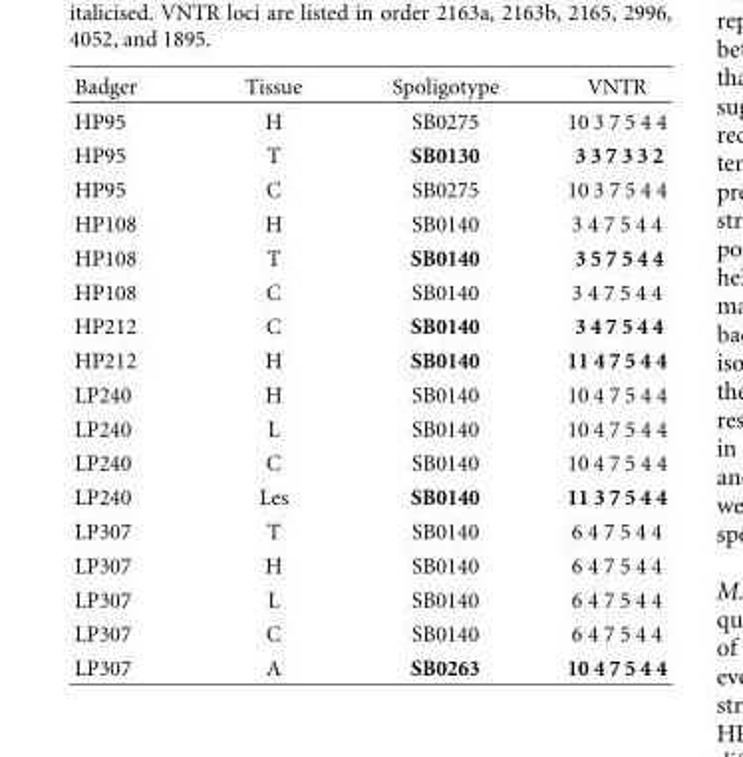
<table><thead><tr><td>Badger</td><td>Tissue</td><td>Spoligotype</td><td>VNTR</td></tr></thead><tbody><tr><td>HP95</td><td>H</td><td>SB0275</td><td>10 3 7 5 4 4</td></tr><tr><td>HP95</td><td>T</td><td>SB0130</td><td>3 3 7 3 3 2</td></tr><tr><td>HP95</td><td>C</td><td>SB0275</td><td>10 3 7 5 4 4</td></tr><tr><td>HP108</td><td>H</td><td>SB0140</td><td>3 4 7 5 4 4</td></tr><tr><td>HP108</td><td>T</td><td>SB0140</td><td>3 5 7 5 4 4</td></tr><tr><td>HP108</td><td>C</td><td>SB0140</td><td>3 4 7 5 4 4</td></tr><tr><td>HP212</td><td>C</td><td>SB0140</td><td>3 4 7 5 4 4</td></tr><tr><td>HP212</td><td>H</td><td>SB0140</td><td>11 4 7 5 4 4</td></tr><tr><td>LP240</td><td>H</td><td>SB0140</td><td>10 4 7 5 4 4</td></tr><tr><td>LP240</td><td>L</td><td>SB0140</td><td>10 4 7 5 4 4</td></tr><tr><td>LP240</td><td>C</td><td>SB0140</td><td>10 4 7 5 4 4</td></tr><tr><td>LP240</td><td>Les</td><td>SB0140</td><td>11 3 7 5 4 4</td></tr><tr><td>LP307</td><td>T</td><td>SB0140</td><td>6 4 7 5 4 4</td></tr><tr><td>LP307</td><td>H</td><td>SB0140</td><td>6 4 7 5 4 4</td></tr><tr><td>LP307</td><td>L</td><td>SB0140</td><td>6 4 7 5 4 4</td></tr><tr><td>LP307</td><td>C</td><td>SB0140</td><td>6 4 7 5 4 4</td></tr><tr><td>LP307</td><td>A</td><td>SB0263</td><td>10 4 7 5 4 4</td></tr></tbody></table>